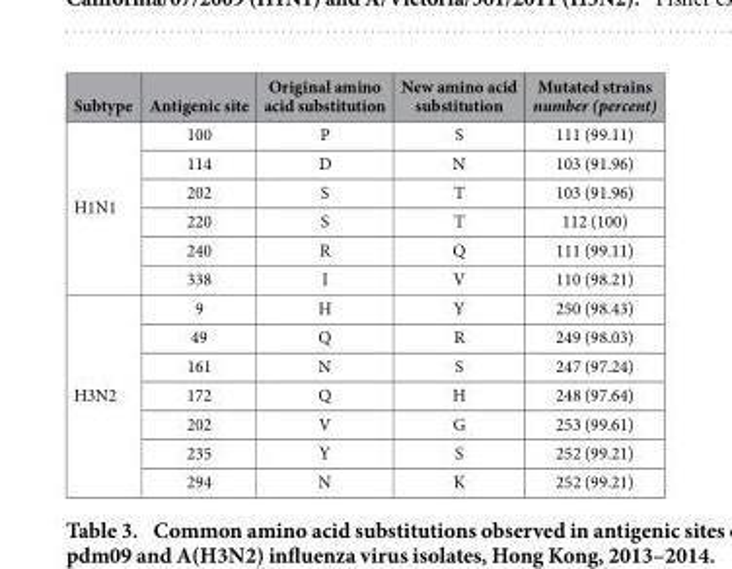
<table><thead><tr><td>Subtype</td><td>Antigenic site</td><td>Original amino acid substitution</td><td>New amino acid substitution</td><td>Mutated strains number (percent)</td></tr></thead><tbody><tr><td rowspan="6">H1N1</td><td>100</td><td>P</td><td>S</td><td>111 (99.11)</td></tr><tr><td>114</td><td>D</td><td>N</td><td>103 (91.96)</td></tr><tr><td>202</td><td>S</td><td>T</td><td>103 (91.96)</td></tr><tr><td>220</td><td>S</td><td>T</td><td>112 (100)</td></tr><tr><td>240</td><td>R</td><td>Q</td><td>111 (99.11)</td></tr><tr><td>338</td><td>I</td><td>V</td><td>110 (98.21)</td></tr><tr><td rowspan="7">H3N2</td><td>9</td><td>H</td><td>Y</td><td>250 (98.43)</td></tr><tr><td>49</td><td>Q</td><td>R</td><td>249 (98.03)</td></tr><tr><td>161</td><td>N</td><td>S</td><td>247 (97.24)</td></tr><tr><td>172</td><td>Q</td><td>H</td><td>248 (97.64)</td></tr><tr><td>202</td><td>V</td><td>G</td><td>253 (99.61)</td></tr><tr><td>235</td><td>Y</td><td>S</td><td>252 (99.21)</td></tr><tr><td>294</td><td>N</td><td>K</td><td>252 (99.21)</td></tr></tbody></table>